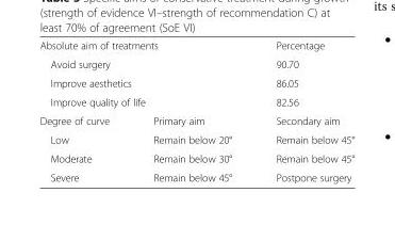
<table><tbody><tr><td colspan="2">Absolute aim of treatments</td><td>Percentage</td></tr><tr><td colspan="2">Avoid surgery</td><td>90.70</td></tr><tr><td colspan="2">Improve aesthetics</td><td>86.05</td></tr><tr><td colspan="2">Improve quality of life</td><td>82.56</td></tr><tr><td>Degree of curve</td><td>Primary aim</td><td>Secondary aim</td></tr><tr><td>Low</td><td>Remain below 20°</td><td>Remain below 45°</td></tr><tr><td>Moderate</td><td>Remain below 30°</td><td>Remain below 45°</td></tr><tr><td>Severe</td><td>Remain below 45°</td><td>Postpone surgery</td></tr></tbody></table>